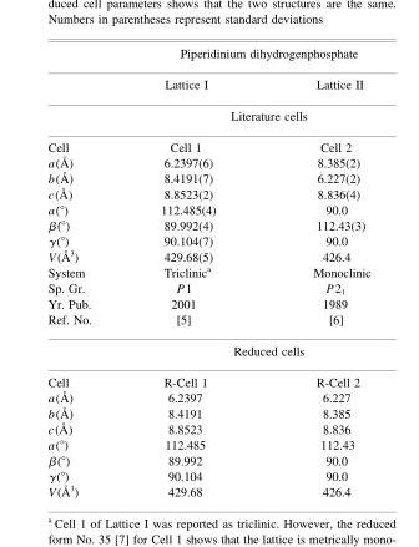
<table><thead><tr><td rowspan="3"></td><td colspan="2">Piperidinium dihydrogenphosphate</td></tr><tr><td>Lattice I</td><td>Lattice II</td></tr><tr><td colspan="2">Literature cells</td></tr></thead><tbody><tr><td>Cell</td><td>Cell 1</td><td>Cell 2</td></tr><tr><td>a(Å)</td><td>6.2397(6)</td><td>8.385(2)</td></tr><tr><td>b(Å)</td><td>8.4191(7)</td><td>6.227(2)</td></tr><tr><td>c(Å)</td><td>8.8523(2)</td><td>8.836(4)</td></tr><tr><td>a(˙�)</td><td>112.485(4)</td><td>90.0</td></tr><tr><td>�(˙�)</td><td>89.992(4)</td><td>112.43(3)</td></tr><tr><td>γ(°)</td><td>90.104(7)</td><td>90.0</td></tr><tr><td>V(Å<sup>3</sup>)</td><td>429.68(5)</td><td>426.4</td></tr><tr><td>System</td><td>Triclinic<sup>a</sup></td><td>Monoclinic</td></tr><tr><td>Sp. Gr.</td><td>P1</td><td>P2<sub>1</sub></td></tr><tr><td>Yr. Pub.</td><td>2001</td><td>1989</td></tr><tr><td rowspan="2">Ref. No.</td><td>[5]</td><td>[6]</td></tr><tr><td colspan="2">Reduced cells</td></tr><tr><td>Cell</td><td>R-Cell 1</td><td>R-Cell 2</td></tr><tr><td>a(Å)</td><td>6.2397</td><td>6.227</td></tr><tr><td>b(Å)</td><td>8.4191</td><td>8.385</td></tr><tr><td>c(Å)</td><td>8.8523</td><td>8.836</td></tr><tr><td>a(°)</td><td>112.485</td><td>112.43</td></tr><tr><td>β(°)</td><td>89.992</td><td>90.0</td></tr><tr><td>γ(°)</td><td>90.104</td><td>90.0</td></tr><tr><td>V(Å<sup>3</sup>)</td><td>429.68</td><td>426.4</td></tr></tbody></table>